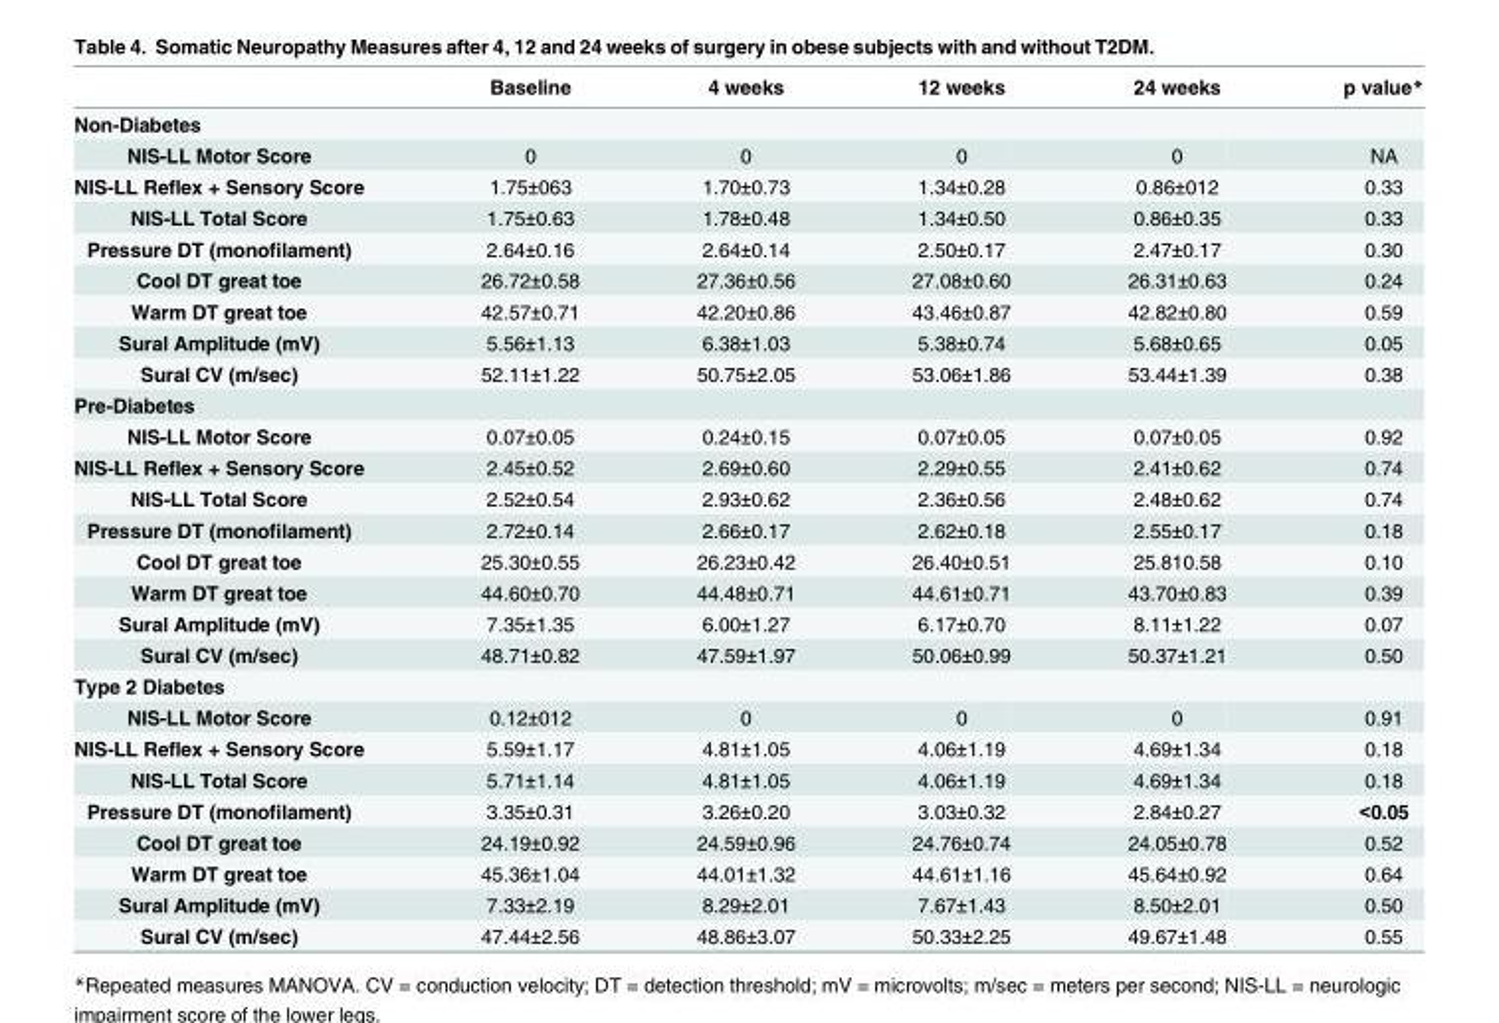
<table><thead><tr><td></td><td>Baseline</td><td>4 weeks</td><td>12 weeks</td><td>24 weeks</td><td>p value*</td></tr></thead><tbody><tr><td colspan="6">Non-Diabetes</td></tr><tr><td>NIS-LL Motor Score</td><td>0</td><td>0</td><td>0</td><td>0</td><td>NA</td></tr><tr><td>NIS-LL Reflex + Sensory Score</td><td>1.75±063</td><td>1.70±0.73</td><td>1.34±0.28</td><td>0.86±012</td><td>0.33</td></tr><tr><td>NIS-LL Total Score</td><td>1.75±0.63</td><td>1.78±0.48</td><td>1.34±0.50</td><td>0.86±0.35</td><td>0.33</td></tr><tr><td>Pressure DT (monofilament)</td><td>2.64±0.16</td><td>2.64±0.14</td><td>2.50±0.17</td><td>2.47±0.17</td><td>0.30</td></tr><tr><td>Cool DT great toe</td><td>26.72±0.58</td><td>27.36±0.56</td><td>27.08±0.60</td><td>26.31±0.63</td><td>0.24</td></tr><tr><td>Warm DT great toe</td><td>42.57±0.71</td><td>42.20±0.86</td><td>43.46±0.87</td><td>42.82±0.80</td><td>0.59</td></tr><tr><td>Sural Amplitude (mV)</td><td>5.56±1.13</td><td>6.38±1.03</td><td>5.38±0.74</td><td>5.68±0.65</td><td>0.05</td></tr><tr><td>Sural CV (m/sec)</td><td>52.11±1.22</td><td>50.75±2.05</td><td>53.06±1.86</td><td>53.44±1.39</td><td>0.38</td></tr><tr><td colspan="6">Pre-Diabetes</td></tr><tr><td>NIS-LL Motor Score</td><td>0.07±0.05</td><td>0.24±0.15</td><td>0.07±0.05</td><td>0.07±0.05</td><td>0.92</td></tr><tr><td>NIS-LL Reflex + Sensory Score</td><td>2.45±0.52</td><td>2.69±0.60</td><td>2.29±0.55</td><td>2.41±0.62</td><td>0.74</td></tr><tr><td>NIS-LL Total Score</td><td>2.52±0.54</td><td>2.93±0.62</td><td>2.36±0.56</td><td>2.48±0.62</td><td>0.74</td></tr><tr><td>Pressure DT (monofilament)</td><td>2.72±0.14</td><td>2.66±0.17</td><td>2.62±0.18</td><td>2.55±0.17</td><td>0.18</td></tr><tr><td>Cool DT great toe</td><td>25.30±0.55</td><td>26.23±0.42</td><td>26.40±0.51</td><td>25.810.58</td><td>0.10</td></tr><tr><td>Warm DT great toe</td><td>44.60±0.70</td><td>44.48±0.71</td><td>44.61±0.71</td><td>43.70±0.83</td><td>0.39</td></tr><tr><td>Sural Amplitude (mV)</td><td>7.35±1.35</td><td>6.00±1.27</td><td>6.17±0.70</td><td>8.11±1.22</td><td>0.07</td></tr><tr><td>Sural CV (m/sec)</td><td>48.71±0.82</td><td>47.59±1.97</td><td>50.06±0.99</td><td>50.37±1.21</td><td>0.50</td></tr><tr><td colspan="6">Type 2 Diabetes</td></tr><tr><td>NIS-LL Motor Score</td><td>0.12±012</td><td>0</td><td>0</td><td>0</td><td>0.91</td></tr><tr><td>NIS-LL Reflex + Sensory Score</td><td>5.59±1.17</td><td>4.81±1.05</td><td>4.06±1.19</td><td>4.69±1.34</td><td>0.18</td></tr><tr><td>NIS-LL Total Score</td><td>5.71±1.14</td><td>4.81±1.05</td><td>4.06±1.19</td><td>4.69±1.34</td><td>0.18</td></tr><tr><td>Pressure DT (monofilament)</td><td>3.35±0.31</td><td>3.26±0.20</td><td>3.03±0.32</td><td>2.84±0.27</td><td>&lt;0.05</td></tr><tr><td>Cool DT great toe</td><td>24.19±0.92</td><td>24.59±0.96</td><td>24.76±0.74</td><td>24.05±0.78</td><td>0.52</td></tr><tr><td>Warm DT great toe</td><td>45.36±1.04</td><td>44.01±1.32</td><td>44.61±1.16</td><td>45.64±0.92</td><td>0.64</td></tr><tr><td>Sural Amplitude (mV)</td><td>7.33±2.19</td><td>8.29±2.01</td><td>7.67±1.43</td><td>8.50±2.01</td><td>0.50</td></tr><tr><td>Sural CV (m/sec)</td><td>47.44±2.56</td><td>48.86±3.07</td><td>50.33±2.25</td><td>49.67±1.48</td><td>0.55</td></tr></tbody></table>